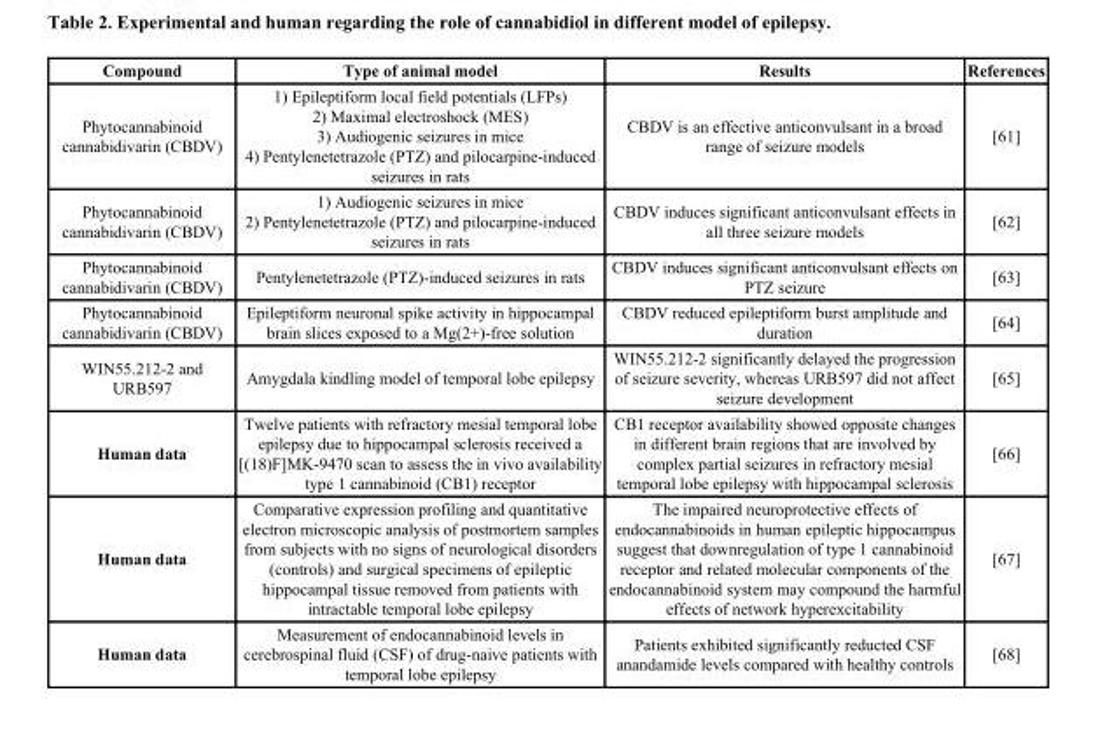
<table><thead><tr><td>Compound</td><td>Type of animal model</td><td>Results</td><td>References</td></tr></thead><tbody><tr><td>Phytocannabinoid cannabidivarin (CBDV)</td><td>1) Epileptiform local field potentials (LFPs) 2) Maximal electroshock (MES) 3) Audiogenic seizures in mice 4) Pentylenetetrazole (PTZ) and pilocarpine-induced seizures in rats</td><td>CBDV is an effective anticonvulsant in a broad range of seizure models</td><td>[61]</td></tr><tr><td>Phytocannabinoid cannabidivarin (CBDV)</td><td>1) Audiogenic seizures in mice 2) Pentylenetetrazole (PTZ) and pilocarpine-induced seizures in rats</td><td>CBDV induces significant anticonvulsant effects in all three seizure models</td><td>[62]</td></tr><tr><td>Phytocannabinoid cannabidivarin (CBDV)</td><td>Pentylenetetrazole (PTZ)-induced seizures in rats</td><td>CBDV induces significant anticonvulsant effects on PTZ seizure</td><td>[63]</td></tr><tr><td>Phytocannabinoid cannabidivarin (CBDV)</td><td>Epileptiform neuronal spike activity in hippocampal brain slices exposed to a Mg(2+)-free solution</td><td>CBDV reduced epileptiform burst amplitude and duration</td><td>[64]</td></tr><tr><td>WIN55.212-2 and URB597</td><td>Amygdala kindling model of temporal lobe epilepsy</td><td>WIN55.212-2 significantly delayed the progression of seizure severity, whereas URB597 did not affect seizure development</td><td>[65]</td></tr><tr><td>Human data</td><td>Twelve patients with refractory mesial temporal lobe epilepsy due to hippocampal sclerosis received a [(18)F]MK-9470 scan to assess the in vivo availability type 1 cannabinoid (CB1) receptor</td><td>CB1 receptor availability showed opposite changes in different brain regions that are involved by complex partial seizures in refractory mesial temporal lobe epilepsy with hippocampal sclerosis</td><td>[66]</td></tr><tr><td>Human data</td><td>Comparative expression profiling and quantitative electron microscopic analysis of postmortem samples from subjects with no signs of neurological disorders (controls) and surgical specimens of epileptic hippocampal tissue removed from patients with intractable temporal lobe epilepsy</td><td>The impaired neuroprotective effects of endocannabinoids in human epileptic hippocampus suggest that downregulation of type 1 cannabinoid receptor and related molecular components of the endocannabinoid system may compound the harmful effects of network hyperexcitability</td><td>[67]</td></tr><tr><td>Human data</td><td>Measurement of endocannabinoid levels in cerebrospinal fluid (CSF) of drug-naive patients with temporal lobe epilepsy</td><td>Patients exhibited significantly reducted CSF anandamide levels compared with healthy controls</td><td>[68]</td></tr></tbody></table>